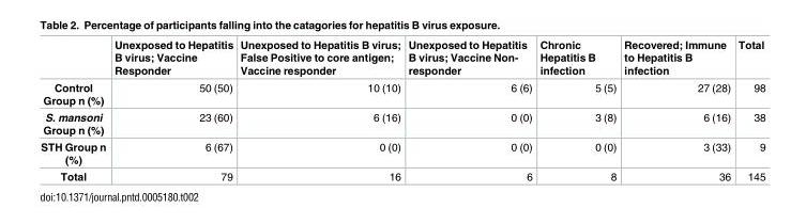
<table><thead><tr><td></td><td>Unexposed to Hepatitis B virus; Vaccine Responder</td><td>Unexposed to Hepatitis B virus; False Positive to core antigen; Vaccine responder</td><td>Unexposed to Hepatitis B virus; Vaccine Non- responder</td><td>Chronic Hepatitis B infection</td><td>Recovered; Immune to Hepatitis B infection</td><td>Total</td></tr></thead><tbody><tr><td>Control Group n (%)</td><td>50 (50)</td><td>10 (10)</td><td>6 (6)</td><td>5 (5)</td><td>27 (28)</td><td>98</td></tr><tr><td>S. mansoni Group n (%)</td><td>23 (60)</td><td>6 (16)</td><td>0 (0)</td><td>3 (8)</td><td>6 (16)</td><td>38</td></tr><tr><td>STH Group n (%)</td><td>6 (67)</td><td>0 (0)</td><td>0 (0)</td><td>0 (0)</td><td>3 (33)</td><td>9</td></tr><tr><td>Total</td><td>79</td><td>16</td><td>6</td><td>8</td><td>36</td><td>145</td></tr></tbody></table>